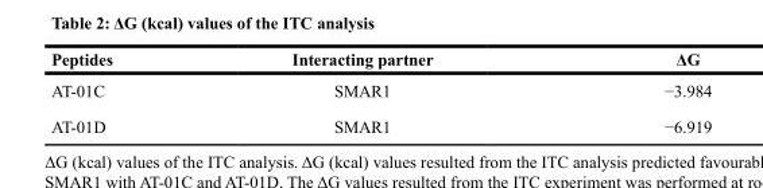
<table><thead><tr><td>Peptides</td><td>Interacting partner</td><td>ΔG</td></tr></thead><tbody><tr><td>AT-01C</td><td>SMAR1</td><td>−3.984</td></tr><tr><td>AT-01D</td><td>SMAR1</td><td>−6.919</td></tr></tbody></table>